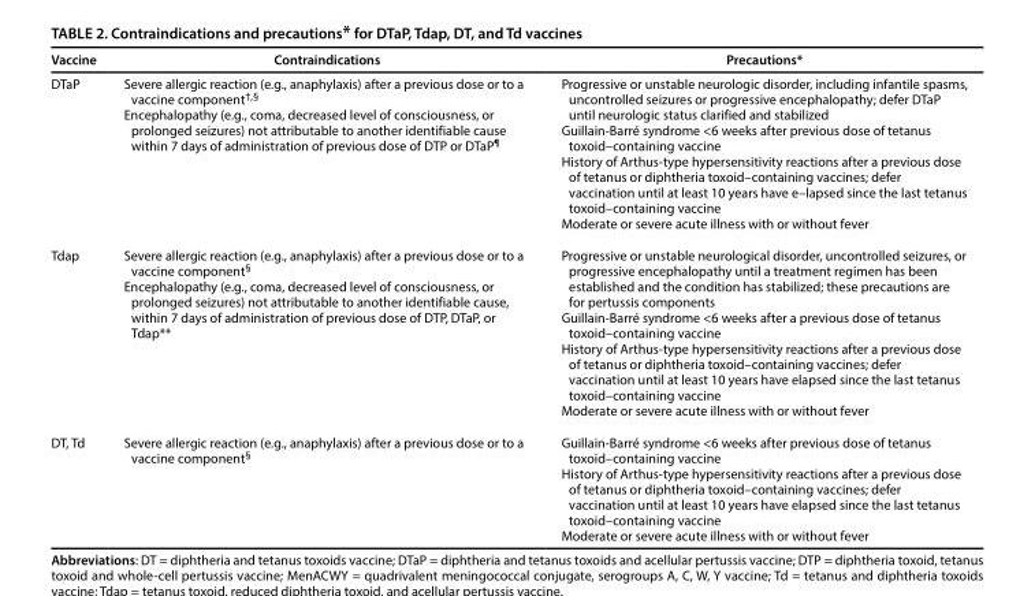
<table><thead><tr><td>Vaccine</td><td>Contraindications</td><td>Precautions*</td></tr></thead><tbody><tr><td>DTaP</td><td>Severe allergic reaction (e.g., anaphylaxis) after a previous dose or to a vaccine component<sup>†,§</sup> Encephalopathy (e.g., coma, decreased level of consciousness, or prolonged seizures) not attributable to another identifiable cause within 7 days of administration of previous dose of DTP or DTaP<sup>¶</sup></td><td>Progressive or unstable neurologic disorder, including infantile spasms, uncontrolled seizures or progressive encephalopathy; defer DTaP until neurologic status clarified and stabilized Guillain-Barré syndrome &lt;6 weeks after previous dose of tetanus toxoid–containing vaccine History of Arthus-type hypersensitivity reactions after a previous dose of tetanus or diphtheria toxoid–containing vaccines; defer vaccination until at least 10 years have e–lapsed since the last tetanus toxoid–containing vaccine Moderate or severe acute illness with or without fever</td></tr><tr><td>Tdap</td><td>Severe allergic reaction (e.g., anaphylaxis) after a previous dose or to a vaccine component<sup>§</sup> Encephalopathy (e.g., coma, decreased level of consciousness, or prolonged seizures) not attributable to another identifiable cause, within 7 days of administration of previous dose of DTP, DTaP, or Tdap**</td><td>Progressive or unstable neurological disorder, uncontrolled seizures, or progressive encephalopathy until a treatment regimen has been established and the condition has stabilized; these precautions are for pertussis components Guillain-Barré syndrome &lt;6 weeks after a previous dose of tetanus toxoid–containing vaccine History of Arthus-type hypersensitivity reactions after a previous dose of tetanus or diphtheria toxoid–containing vaccines; defer vaccination until at least 10 years have elapsed since the last tetanus toxoid–containing vaccine Moderate or severe acute illness with or without fever</td></tr><tr><td>DT, Td</td><td>Severe allergic reaction (e.g., anaphylaxis) after a previous dose or to a vaccine component<sup>§</sup></td><td>Guillain-Barré syndrome &lt;6 weeks after previous dose of tetanus toxoid–containing vaccine History of Arthus-type hypersensitivity reactions after a previous dose of tetanus or diphtheria toxoid–containing vaccines; defer vaccination until at least 10 years have elapsed since the last tetanus toxoid–containing vaccine Moderate or severe acute illness with or without fever</td></tr></tbody></table>